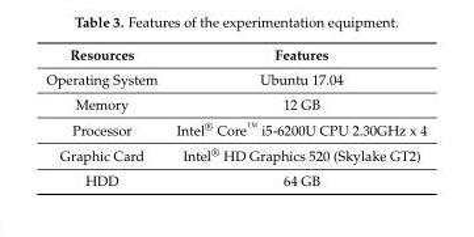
<table><thead><tr><td>Resources</td><td>Features</td></tr></thead><tbody><tr><td>Operating System</td><td>Ubuntu 17.04</td></tr><tr><td>Memory</td><td>12 GB</td></tr><tr><td>Processor</td><td>Intel<sup>®</sup> Core<sup>™</sup> i5-6200U CPU 2.30GHz x 4</td></tr><tr><td>Graphic Card</td><td>Intel<sup>®</sup> HD Graphics 520 (Skylake GT2)</td></tr><tr><td>HDD</td><td>64 GB</td></tr></tbody></table>